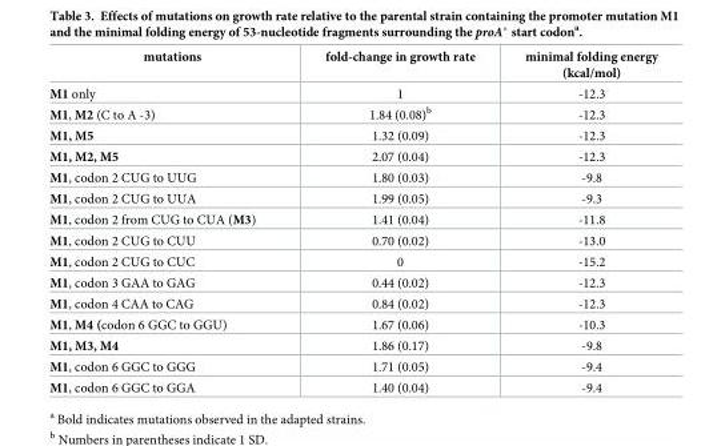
<table><thead><tr><td>mutations</td><td>fold-change in growth rate</td><td>minimal folding energy (kcal/mol)</td></tr></thead><tbody><tr><td>M1 only</td><td>1</td><td>-12.3</td></tr><tr><td>M1, M2 (C to A -3)</td><td>1.84 (0.08)<sup>b</sup></td><td>-12.3</td></tr><tr><td>M1, M5</td><td>1.32 (0.09)</td><td>-12.3</td></tr><tr><td>M1, M2, M5</td><td>2.07 (0.04)</td><td>-12.3</td></tr><tr><td>M1, codon 2 CUG to UUG</td><td>1.80 (0.03)</td><td>-9.8</td></tr><tr><td>M1, codon 2 CUG to UUA</td><td>1.99 (0.05)</td><td>-9.3</td></tr><tr><td>M1, codon 2 from CUG to CUA (M3)</td><td>1.41 (0.04)</td><td>-11.8</td></tr><tr><td>M1, codon 2 CUG to CUU</td><td>0.70 (0.02)</td><td>-13.0</td></tr><tr><td>M1, codon 2 CUG to CUC</td><td>0</td><td>-15.2</td></tr><tr><td>M1, codon 3 GAA to GAG</td><td>0.44 (0.02)</td><td>-12.3</td></tr><tr><td>M1, codon 4 CAA to CAG</td><td>0.84 (0.02)</td><td>-12.3</td></tr><tr><td>M1, M4 (codon 6 GGC to GGU)</td><td>1.67 (0.06)</td><td>-10.3</td></tr><tr><td>M1, M3, M4</td><td>1.86 (0.17)</td><td>-9.8</td></tr><tr><td>M1, codon 6 GGC to GGG</td><td>1.71 (0.05)</td><td>-9.4</td></tr><tr><td>M1, codon 6 GGC to GGA</td><td>1.40 (0.04)</td><td>-9.4</td></tr></tbody></table>